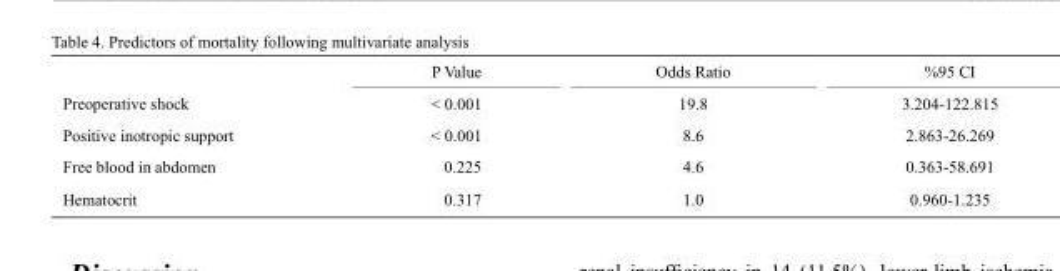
<table><thead><tr><td></td><td>P Value</td><td>Odds Ratio</td><td>%95 CI</td></tr></thead><tbody><tr><td>Preoperative shock</td><td>&lt; 0.001</td><td>19.8</td><td>3.204-122.815</td></tr><tr><td>Positive inotropic support</td><td>&lt; 0.001</td><td>8.6</td><td>2.863-26.269</td></tr><tr><td>Free blood in abdomen</td><td>0.225</td><td>4.6</td><td>0.363-58.691</td></tr><tr><td>Hematocrit</td><td>0.317</td><td>1.0</td><td>0.960-1.235</td></tr></tbody></table>